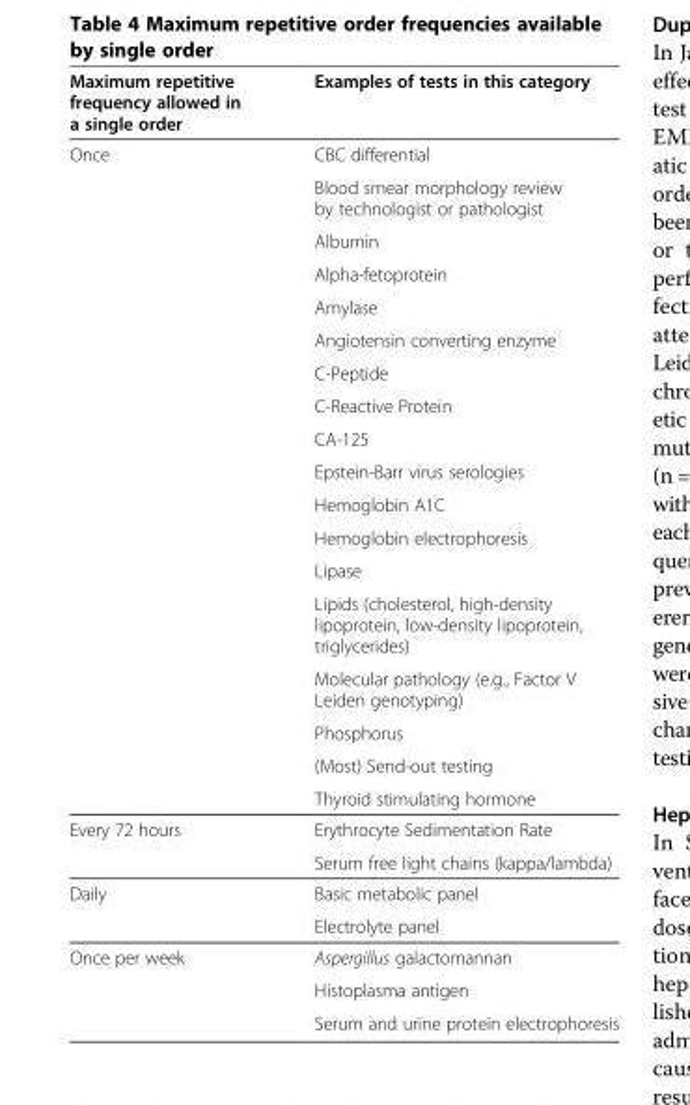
<table><thead><tr><td>Maximum repetitive frequency allowed in a single order</td><td>Examples of tests in this category</td></tr></thead><tbody><tr><td rowspan="18">Once</td><td>CBC differential</td></tr><tr><td>Blood smear morphology review by technologist or pathologist</td></tr><tr><td>Albumin</td></tr><tr><td>Alpha-fetoprotein</td></tr><tr><td>Amylase</td></tr><tr><td>Angiotensin converting enzyme</td></tr><tr><td>C-Peptide</td></tr><tr><td>C-Reactive Protein</td></tr><tr><td>CA-125</td></tr><tr><td>Epstein-Barr virus serologies</td></tr><tr><td>Hemoglobin A1C</td></tr><tr><td>Hemoglobin electrophoresis</td></tr><tr><td>Lipase</td></tr><tr><td>Lipids (cholesterol, high-density lipoprotein, low-density lipoprotein, triglycerides)</td></tr><tr><td>Molecular pathology (e.g., Factor V Leiden genotyping)</td></tr><tr><td>Phosphorus</td></tr><tr><td>(Most) Send-out testing</td></tr><tr><td>Thyroid stimulating hormone</td></tr><tr><td rowspan="2">Every 72 hours</td><td>Erythrocyte Sedimentation Rate</td></tr><tr><td>Serum free light chains (kappa/lambda)</td></tr><tr><td rowspan="2">Daily</td><td>Basic metabolic panel</td></tr><tr><td>Electrolyte panel</td></tr><tr><td rowspan="3">Once per week</td><td>Aspergillus galactomannan</td></tr><tr><td>Histoplasma antigen</td></tr><tr><td>Serum and urine protein electrophoresis</td></tr></tbody></table>